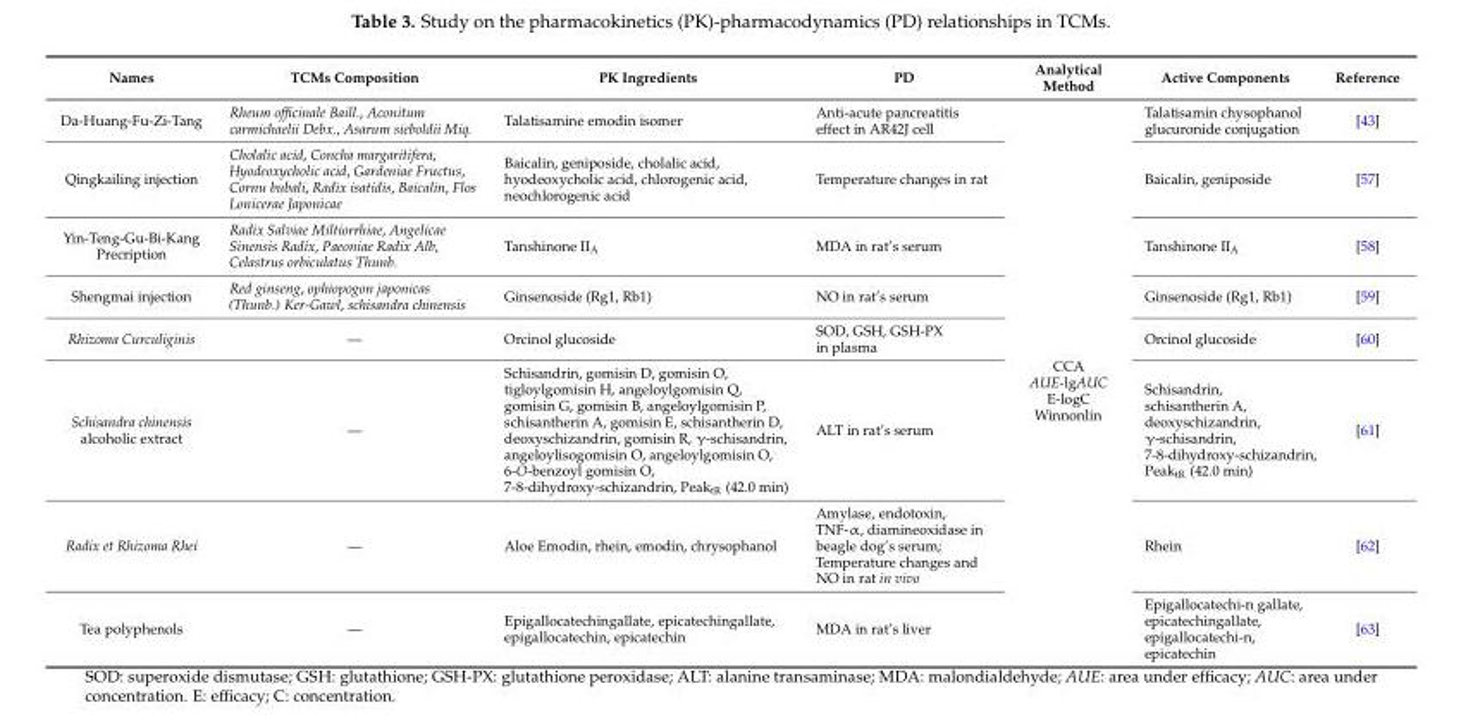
<table><thead><tr><td>Names</td><td>TCMs Composition</td><td>PK Ingredients</td><td>PD</td><td>Analytical Method</td><td>Active Components</td><td>Reference</td></tr></thead><tbody><tr><td>Da-Huang-Fu-Zi-Tang</td><td>Rheum officinale Baill., Aconitum carmichaelii Debx., Asarum sieboldii Miq.</td><td>Talatisamine emodin isomer</td><td>Anti-acute pancreatitis effect in AR42J cell</td><td rowspan="8">CCA AUE-lgAUC E-logC Winnonlin</td><td>Talatisamin chysophanol glucuronide conjugation</td><td>[43]</td></tr><tr><td>Qingkailing injection</td><td>Cholalic acid, Concha margaritifera, Hyodeoxycholic acid, Gardeniae Fructus, Cornu bubali, Radix isatidis, Baicalin, Flos Lonicerae Japonicae</td><td>Baicalin, geniposide, cholalic acid, hyodeoxycholic acid, chlorogenic acid, neochlorogenic acid</td><td>Temperature changes in rat</td><td>Baicalin, geniposide</td><td>[57]</td></tr><tr><td>Yin-Teng-Gu-Bi-Kang Precription</td><td>Radix Salviae Miltiorrhiae, Angelicae Sinensis Radix, Paeoniae Radix Alb, Celastrus orbiculatus Thunb.</td><td>Tanshinone II<sub>A</sub></td><td>MDA in rat’s serum</td><td>Tanshinone II<sub>A</sub></td><td>[58]</td></tr><tr><td>Shengmai injection</td><td>Red ginseng, ophiopogon japonicas (Thunb.) Ker-Gawl, schisandra chinensis</td><td>Ginsenoside (Rg1, Rb1)</td><td>NO in rat’s serum</td><td>Ginsenoside (Rg1, Rb1)</td><td>[59]</td></tr><tr><td>Rhizoma Curculiginis</td><td>—</td><td>Orcinol glucoside</td><td>SOD, GSH, GSH-PX in plasma</td><td>Orcinol glucoside</td><td>[60]</td></tr><tr><td>Schisandra chinensis alcoholic extract</td><td>—</td><td>Schisandrin, gomisin D, gomisin O, tigloylgomisin H, angeloylgomisin Q, gomisin G, gomisin B, angeloylgomisin P, schisantherin A, gomisin E, schisantherin D, deoxyschizandrin, gomisin R, γ-schisandrin, angeloylisogomisin O, angeloylgomisin O, 6-O-benzoyl gomisin O, 7-8-dihydroxy-schizandrin, Peak<sub>tR</sub> (42.0 min)</td><td>ALT in rat’s serum</td><td>Schisandrin, schisantherin A, deoxyschizandrin, γ-schisandrin, 7-8-dihydroxy-schizandrin, Peak<sub>tR</sub> (42.0 min)</td><td>[61]</td></tr><tr><td>Radix et Rhizoma Rhei</td><td>—</td><td>Aloe Emodin, rhein, emodin, chrysophanol</td><td>Amylase, endotoxin, TNF-α, diamineoxidase in beagle dog’s serum; Temperature changes and NO in rat in vivo</td><td>Rhein</td><td>[62]</td></tr><tr><td>Tea polyphenols</td><td>—</td><td>Epigallocatechingallate, epicatechingallate, epigallocatechin, epicatechin</td><td>MDA in rat’s liver</td><td>Epigallocatechi-n gallate, epicatechingallate, epigallocatechi-n, epicatechin</td><td>[63]</td></tr></tbody></table>